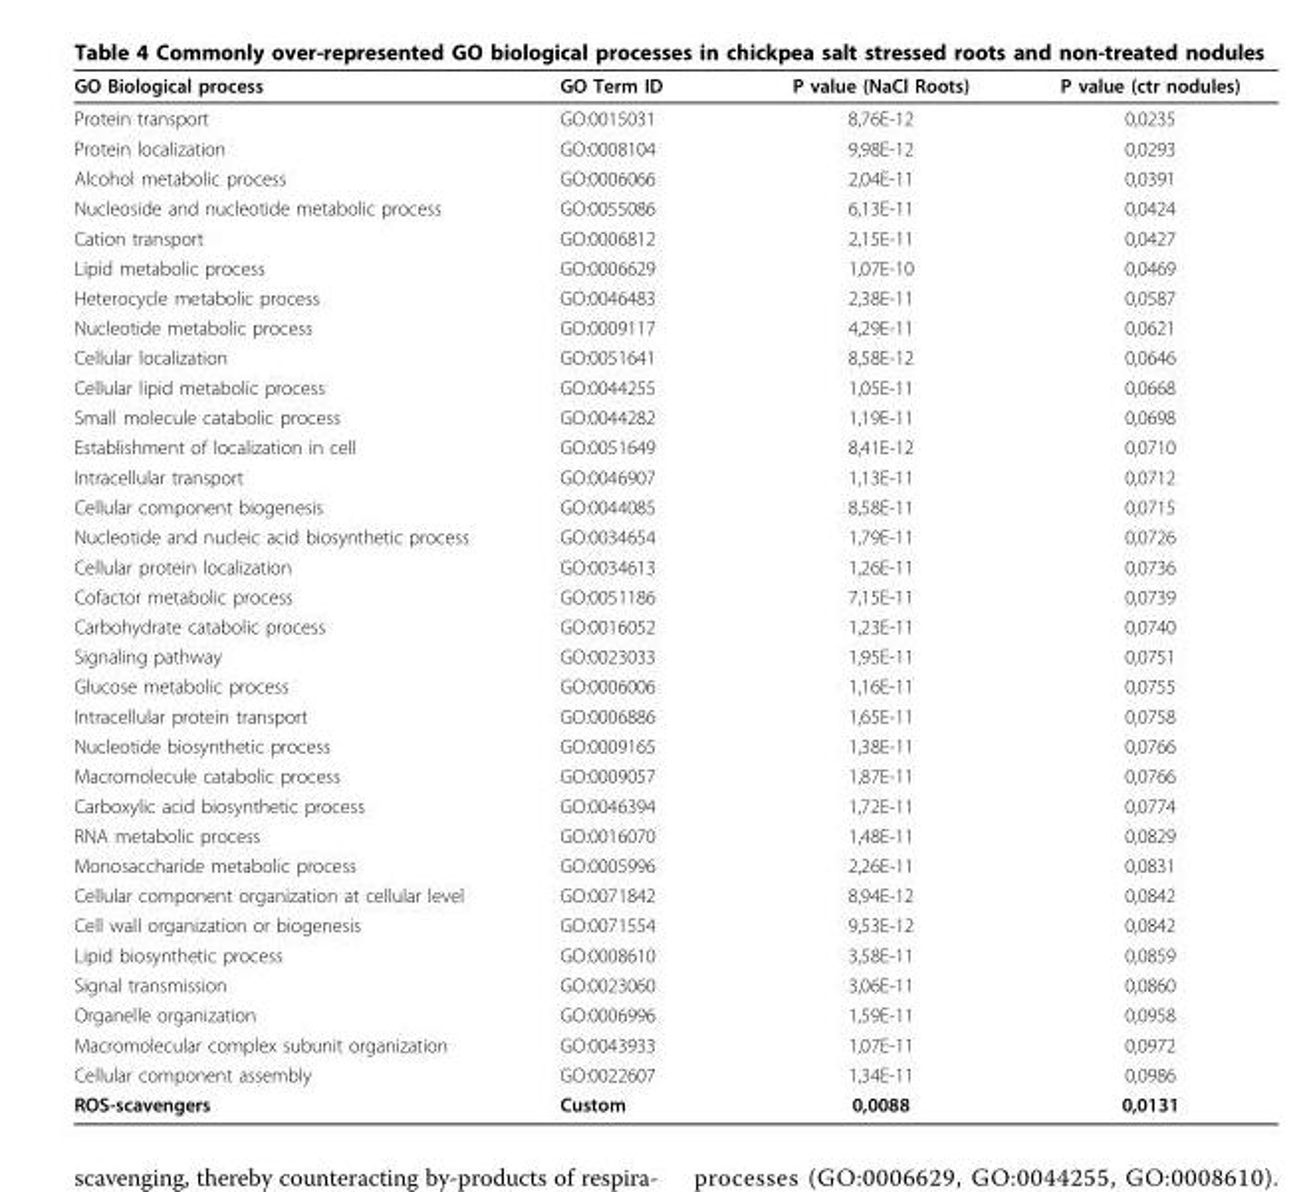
<table><thead><tr><td>GO Biological process</td><td>GO Term ID</td><td>P value (NaCl Roots)</td><td>P value (ctr nodules)</td></tr></thead><tbody><tr><td>Protein transport</td><td>GO:0015031</td><td>8,76E-12</td><td>0,0235</td></tr><tr><td>Protein localization</td><td>GO:0008104</td><td>9,98E-12</td><td>0,0293</td></tr><tr><td>Alcohol metabolic process</td><td>GO:0006066</td><td>2,04E-11</td><td>0,0391</td></tr><tr><td>Nucleoside and nucleotide metabolic process</td><td>GO:0055086</td><td>6,13E-11</td><td>0,0424</td></tr><tr><td>Cation transport</td><td>GO:0006812</td><td>2,15E-11</td><td>0,0427</td></tr><tr><td>Lipid metabolic process</td><td>GO:0006629</td><td>1,07E-10</td><td>0,0469</td></tr><tr><td>Heterocycle metabolic process</td><td>GO:0046483</td><td>2,38E-11</td><td>0,0587</td></tr><tr><td>Nucleotide metabolic process</td><td>GO:0009117</td><td>4,29E-11</td><td>0,0621</td></tr><tr><td>Cellular localization</td><td>GO:0051641</td><td>8,58E-12</td><td>0,0646</td></tr><tr><td>Cellular lipid metabolic process</td><td>GO:0044255</td><td>1,05E-11</td><td>0,0668</td></tr><tr><td>Small molecule catabolic process</td><td>GO:0044282</td><td>1,19E-11</td><td>0,0698</td></tr><tr><td>Establishment of localization in cell</td><td>GO:0051649</td><td>8,41E-12</td><td>0,0710</td></tr><tr><td>Intracellular transport</td><td>GO:0046907</td><td>1,13E-11</td><td>0,0712</td></tr><tr><td>Cellular component biogenesis</td><td>GO:0044085</td><td>8,58E-11</td><td>0,0715</td></tr><tr><td>Nucleotide and nucleic acid biosynthetic process</td><td>GO:0034654</td><td>1,79E-11</td><td>0,0726</td></tr><tr><td>Cellular protein localization</td><td>GO:0034613</td><td>1,26E-11</td><td>0,0736</td></tr><tr><td>Cofactor metabolic process</td><td>GO:0051186</td><td>7,15E-11</td><td>0,0739</td></tr><tr><td>Carbohydrate catabolic process</td><td>GO:0016052</td><td>1,23E-11</td><td>0,0740</td></tr><tr><td>Signaling pathway</td><td>GO:0023033</td><td>1,95E-11</td><td>0,0751</td></tr><tr><td>Glucose metabolic process</td><td>GO:0006006</td><td>1,16E-11</td><td>0,0755</td></tr><tr><td>Intracellular protein transport</td><td>GO:0006886</td><td>1,65E-11</td><td>0,0758</td></tr><tr><td>Nucleotide biosynthetic process</td><td>GO:0009165</td><td>1,38E-11</td><td>0,0766</td></tr><tr><td>Macromolecule catabolic process</td><td>GO:0009057</td><td>1,87E-11</td><td>0,0766</td></tr><tr><td>Carboxylic acid biosynthetic process</td><td>GO:0046394</td><td>1,72E-11</td><td>0,0774</td></tr><tr><td>RNA metabolic process</td><td>GO:0016070</td><td>1,48E-11</td><td>0,0829</td></tr><tr><td>Monosaccharide metabolic process</td><td>GO:0005996</td><td>2,26E-11</td><td>0,0831</td></tr><tr><td>Cellular component organization at cellular level</td><td>GO:0071842</td><td>8,94E-12</td><td>0,0842</td></tr><tr><td>Cell wall organization or biogenesis</td><td>GO:0071554</td><td>9,53E-12</td><td>0,0842</td></tr><tr><td>Lipid biosynthetic process</td><td>GO:0008610</td><td>3,58E-11</td><td>0,0859</td></tr><tr><td>Signal transmission</td><td>GO:0023060</td><td>3,06E-11</td><td>0,0860</td></tr><tr><td>Organelle organization</td><td>GO:0006996</td><td>1,59E-11</td><td>0,0958</td></tr><tr><td>Macromolecular complex subunit organization</td><td>GO:0043933</td><td>1,07E-11</td><td>0,0972</td></tr><tr><td>Cellular component assembly</td><td>GO:0022607</td><td>1,34E-11</td><td>0,0986</td></tr><tr><td>ROS-scavengers</td><td>Custom</td><td>0,0088</td><td>0,0131</td></tr></tbody></table>